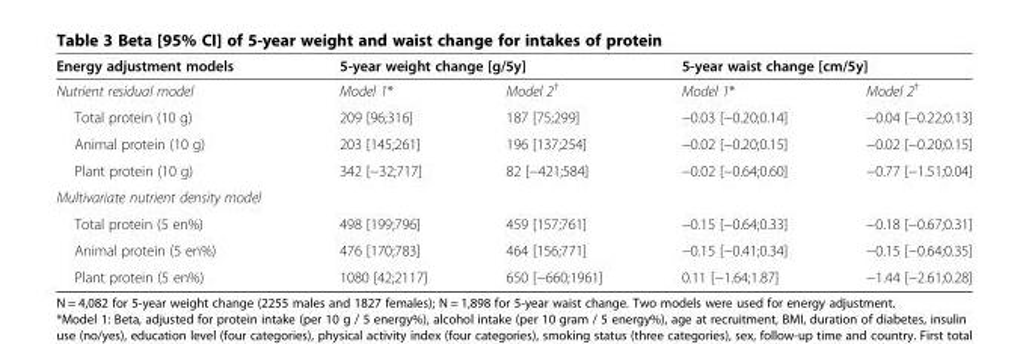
<table><thead><tr><td rowspan="2">Energy adjustment models Nutrient residual model</td><td colspan="2">5-year weight change [g/5y]</td><td colspan="2">5-year waist change [cm/5y]</td></tr><tr><td>Model 1*</td><td>Model 2<sup>†</sup></td><td>Model 1*</td><td>Model 2<sup>†</sup></td></tr></thead><tbody><tr><td>Total protein (10 g)</td><td>209 [96;316]</td><td>187 [75;299]</td><td>−0.03 [−0.20;0.14]</td><td>−0.04 [−0.22;0.13]</td></tr><tr><td>Animal protein (10 g)</td><td>203 [145;261]</td><td>196 [137;254]</td><td>−0.02 [−0.20;0.15]</td><td>−0.02 [−0.20;0.15]</td></tr><tr><td>Plant protein (10 g)</td><td>342 [−32;717]</td><td>82 [−421;584]</td><td>−0.02 [−0.64;0.60]</td><td>−0.77 [−1.51;0.04]</td></tr><tr><td colspan="5">Multivariate nutrient density model</td></tr><tr><td>Total protein (5 en%)</td><td>498 [199;796]</td><td>459 [157;761]</td><td>−0.15 [−0.64;0.33]</td><td>−0.18 [−0.67;0.31]</td></tr><tr><td>Animal protein (5 en%)</td><td>476 [170;783]</td><td>464 [156;771]</td><td>−0.15 [−0.41;0.34]</td><td>−0.15 [−0.64;0.35]</td></tr><tr><td>Plant protein (5 en%)</td><td>1080 [42;2117]</td><td>650 [−660;1961]</td><td>0.11 [−1.64;1.87]</td><td>−1.44 [−2.61;0.28]</td></tr></tbody></table>